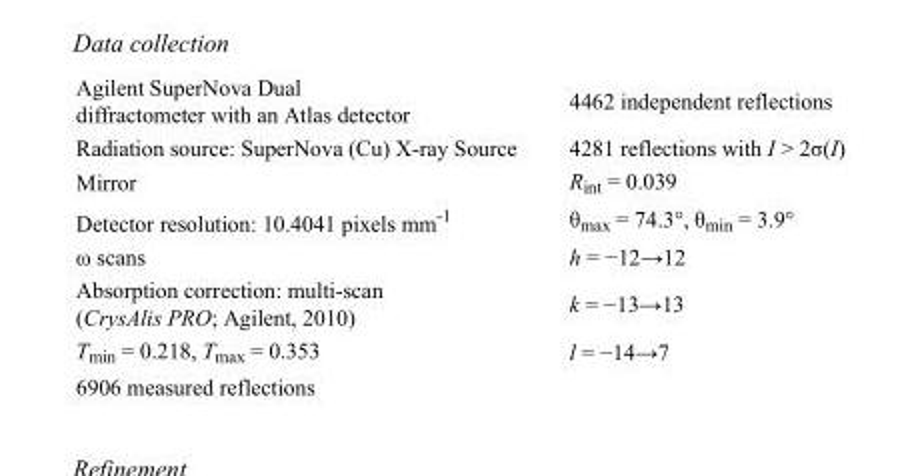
<table><tbody><tr><td>Agilent SuperNova Dual diffractometer with an Atlas detector</td><td>4462 independent reflections</td></tr><tr><td>Radiation source: SuperNova (Cu) X-ray Source</td><td>4281 reflections with I &gt; 2σ(I)</td></tr><tr><td>Mirror</td><td>R<sub>int</sub> = 0.039</td></tr><tr><td>Detector resolution: 10.4041 pixels mm<sup>-1</sup></td><td>θ<sub>max</sub> = 74.3°, θ<sub>min</sub> = 3.9°</td></tr><tr><td>ω scans</td><td>h = −12→12</td></tr><tr><td>Absorption correction: multi-scan (CrysAlis PRO; Agilent, 2010)</td><td>k = −13→13</td></tr><tr><td>T<sub>min</sub> = 0.218, T<sub>max</sub> = 0.353</td><td>l = −14→7</td></tr><tr><td>6906 measured reflections</td><td></td></tr></tbody></table>